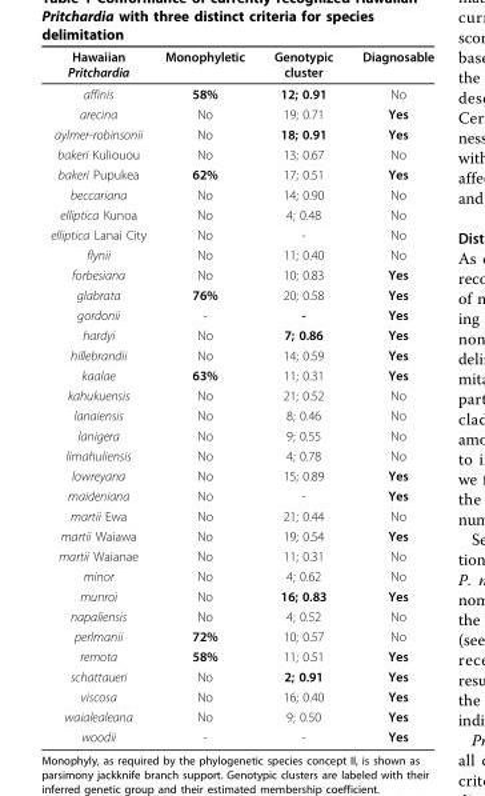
<table><thead><tr><td>Hawaiian Pritchardia</td><td>Monophyletic</td><td>Genotypic cluster</td><td>Diagnosable</td></tr></thead><tbody><tr><td>affinis</td><td>58%</td><td>12; 0.91</td><td>No</td></tr><tr><td>arecina</td><td>No</td><td>19; 0.71</td><td>Yes</td></tr><tr><td>aylmer-robinsonii</td><td>No</td><td>18; 0.91</td><td>Yes</td></tr><tr><td>bakeri Kuliouou</td><td>No</td><td>13; 0.67</td><td>No</td></tr><tr><td>bakeri Pupukea</td><td>62%</td><td>17; 0.51</td><td>Yes</td></tr><tr><td>beccariana</td><td>No</td><td>14; 0.90</td><td>No</td></tr><tr><td>elliptica Kunoa</td><td>No</td><td>4; 0.48</td><td>No</td></tr><tr><td>elliptica Lanai City</td><td>No</td><td>-</td><td>No</td></tr><tr><td>flynii</td><td>No</td><td>11; 0.40</td><td>No</td></tr><tr><td>forbesiana</td><td>No</td><td>10; 0.83</td><td>Yes</td></tr><tr><td>glabrata</td><td>76%</td><td>20; 0.58</td><td>Yes</td></tr><tr><td>gordonii</td><td>-</td><td>-</td><td>Yes</td></tr><tr><td>hardyi</td><td>No</td><td>7; 0.86</td><td>Yes</td></tr><tr><td>hillebrandii</td><td>No</td><td>14; 0.59</td><td>Yes</td></tr><tr><td>kaalae</td><td>63%</td><td>11; 0.31</td><td>Yes</td></tr><tr><td>kahukuensis</td><td>No</td><td>21; 0.52</td><td>No</td></tr><tr><td>lanaiensis</td><td>No</td><td>8; 0.46</td><td>No</td></tr><tr><td>lanigera</td><td>No</td><td>9; 0.55</td><td>No</td></tr><tr><td>limahuliensis</td><td>No</td><td>4; 0.78</td><td>No</td></tr><tr><td>lowreyana</td><td>No</td><td>15; 0.89</td><td>Yes</td></tr><tr><td>maideniana</td><td>No</td><td>-</td><td>Yes</td></tr><tr><td>martii Ewa</td><td>No</td><td>21; 0.44</td><td>No</td></tr><tr><td>martii Waiawa</td><td>No</td><td>19; 0.54</td><td>Yes</td></tr><tr><td>martii Waianae</td><td>No</td><td>11; 0.31</td><td>No</td></tr><tr><td>minor</td><td>No</td><td>4; 0.62</td><td>No</td></tr><tr><td>munroi</td><td>No</td><td>16; 0.83</td><td>Yes</td></tr><tr><td>napaliensis</td><td>No</td><td>4; 0.52</td><td>No</td></tr><tr><td>perlmanii</td><td>72%</td><td>10; 0.57</td><td>No</td></tr><tr><td>remota</td><td>58%</td><td>11; 0.51</td><td>Yes</td></tr><tr><td>schattaueri</td><td>No</td><td>2; 0.91</td><td>Yes</td></tr><tr><td>viscosa</td><td>No</td><td>16; 0.40</td><td>Yes</td></tr><tr><td>waialealeana</td><td>No</td><td>9; 0.50</td><td>Yes</td></tr><tr><td>woodii</td><td>-</td><td>-</td><td>Yes</td></tr></tbody></table>